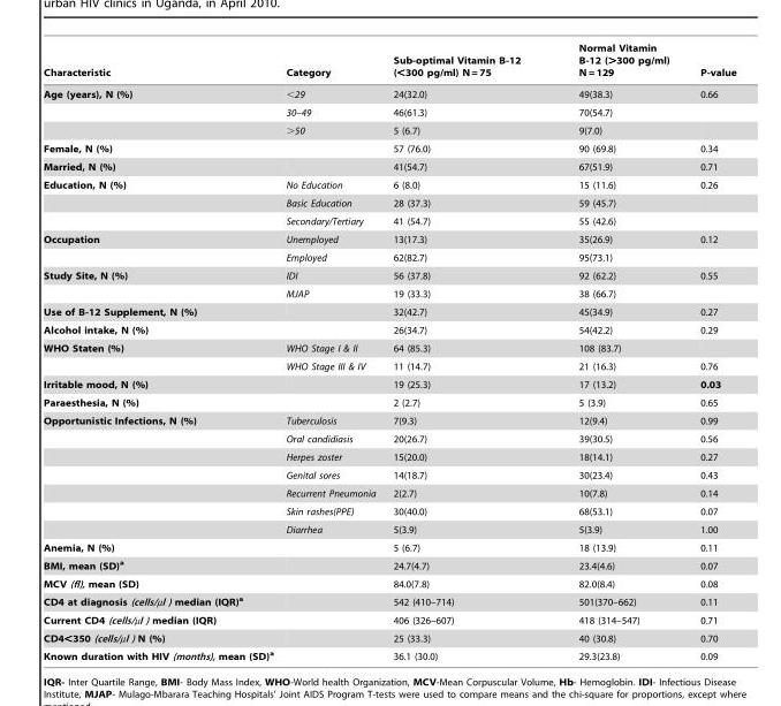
<table><thead><tr><td>Characteristic</td><td>Category</td><td>Sub-optimal Vitamin B-12 (&lt;300 pg/ml) N = 75</td><td>Normal Vitamin B-12 (&gt;300 pg/ml) N = 129</td><td>P-value</td></tr></thead><tbody><tr><td rowspan="3">Age (years), N (%)</td><td>&lt;29</td><td>24(32.0)</td><td>49(38.3)</td><td>0.66</td></tr><tr><td>30–49</td><td>46(61.3)</td><td>70(54.7)</td><td></td></tr><tr><td>&gt;50</td><td>5 (6.7)</td><td>9(7.0)</td><td></td></tr><tr><td>Female, N (%)</td><td></td><td>57 (76.0)</td><td>90 (69.8)</td><td>0.34</td></tr><tr><td>Married, N (%)</td><td></td><td>41(54.7)</td><td>67(51.9)</td><td>0.71</td></tr><tr><td rowspan="3">Education, N (%)</td><td>No Education</td><td>6 (8.0)</td><td>15 (11.6)</td><td>0.26</td></tr><tr><td>Basic Education</td><td>28 (37.3)</td><td>59 (45.7)</td><td></td></tr><tr><td>Secondary/Tertiary</td><td>41 (54.7)</td><td>55 (42.6)</td><td></td></tr><tr><td rowspan="2">Occupation</td><td>Unemployed</td><td>13(17.3)</td><td>35(26.9)</td><td>0.12</td></tr><tr><td>Employed</td><td>62(82.7)</td><td>95(73.1)</td><td></td></tr><tr><td rowspan="2">Study Site, N (%)</td><td>IDI</td><td>56 (37.8)</td><td>92 (62.2)</td><td>0.55</td></tr><tr><td>MJAP</td><td>19 (33.3)</td><td>38 (66.7)</td><td></td></tr><tr><td>Use of B-12 Supplement, N (%)</td><td></td><td>32(42.7)</td><td>45(34.9)</td><td>0.27</td></tr><tr><td>Alcohol intake, N (%)</td><td></td><td>26(34.7)</td><td>54(42.2)</td><td>0.29</td></tr><tr><td rowspan="2">WHO Staten (%)</td><td>WHO Stage I &amp; II</td><td>64 (85.3)</td><td>108 (83.7)</td><td></td></tr><tr><td>WHO Stage III &amp; IV</td><td>11 (14.7)</td><td>21 (16.3)</td><td>0.76</td></tr><tr><td>Irritable mood, N (%)</td><td></td><td>19 (25.3)</td><td>17 (13.2)</td><td>0.03</td></tr><tr><td>Paraesthesia, N (%)</td><td></td><td>2 (2.7)</td><td>5 (3.9)</td><td>0.65</td></tr><tr><td rowspan="7">Opportunistic Infections, N (%)</td><td>Tuberculosis</td><td>7(9.3)</td><td>12(9.4)</td><td>0.99</td></tr><tr><td>Oral candidiasis</td><td>20(26.7)</td><td>39(30.5)</td><td>0.56</td></tr><tr><td>Herpes zoster</td><td>15(20.0)</td><td>18(14.1)</td><td>0.27</td></tr><tr><td>Genital sores</td><td>14(18.7)</td><td>30(23.4)</td><td>0.43</td></tr><tr><td>Recurrent Pneumonia</td><td>2(2.7)</td><td>10(7.8)</td><td>0.14</td></tr><tr><td>Skin rashes(PPE)</td><td>30(40.0)</td><td>68(53.1)</td><td>0.07</td></tr><tr><td>Diarrhea</td><td>5(3.9)</td><td>5(3.9)</td><td>1.00</td></tr><tr><td>Anemia, N (%)</td><td></td><td>5 (6.7)</td><td>18 (13.9)</td><td>0.11</td></tr><tr><td>BMI, mean (SD)a</td><td></td><td>24.7(4.7)</td><td>23.4(4.6)</td><td>0.07</td></tr><tr><td>MCV (fl), mean (SD)</td><td></td><td>84.0(7.8)</td><td>82.0(8.4)</td><td>0.08</td></tr><tr><td>CD4 at diagnosis (cells/µl ) median (IQR)a</td><td></td><td>542 (410–714)</td><td>501(370–662)</td><td>0.11</td></tr><tr><td>Current CD4 (cells/µl ) median (IQR)</td><td></td><td>406 (326–607)</td><td>418 (314–547)</td><td>0.71</td></tr><tr><td>CD4&lt;350 (cells/µl ) N (%)</td><td></td><td>25 (33.3)</td><td>40 (30.8)</td><td>0.70</td></tr><tr><td>Known duration with HIV (months), mean (SD)a</td><td></td><td>36.1 (30.0)</td><td>29.3(23.8)</td><td>0.09</td></tr></tbody></table>